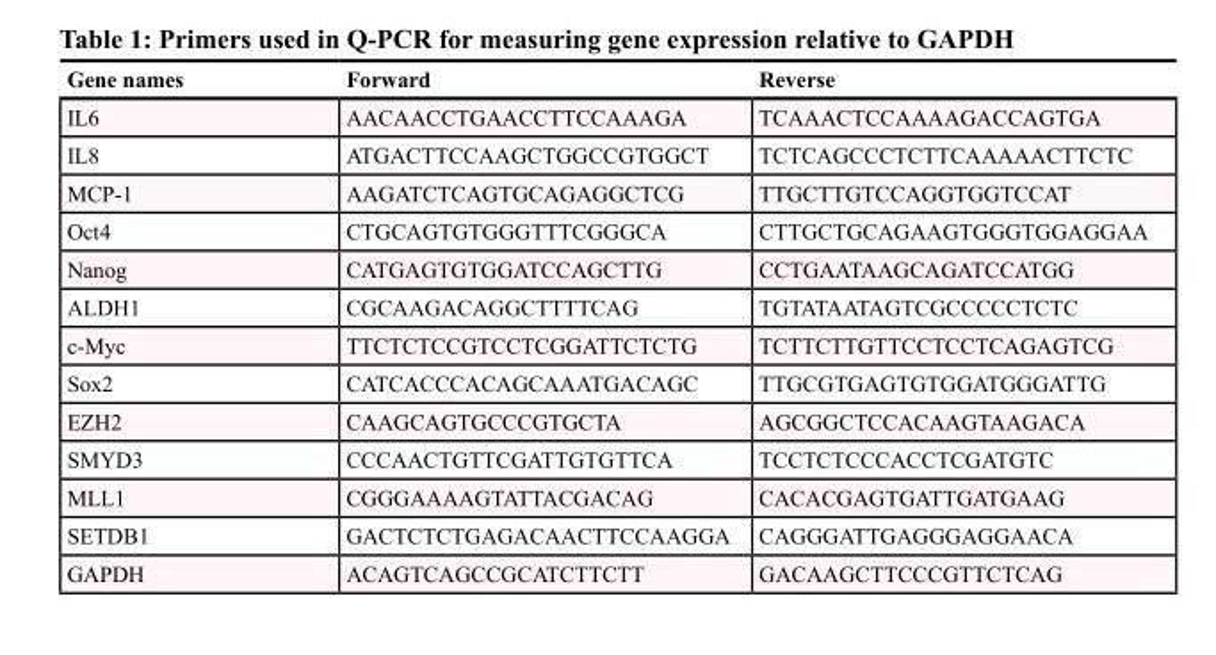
<table><thead><tr><td>Gene names</td><td>Forward</td><td>Reverse</td></tr></thead><tbody><tr><td>IL6</td><td>AACAACCTGAACCTTCCAAAGA</td><td>TCAAACTCCAAAAGACCAGTGA</td></tr><tr><td>IL8</td><td>ATGACTTCCAAGCTGGCCGTGGCT</td><td>TCTCAGCCCTCTTCAAAAACTTCTC</td></tr><tr><td>MCP-1</td><td>AAGATCTCAGTGCAGAGGCTCG</td><td>TTGCTTGTCCAGGTGGTCCAT</td></tr><tr><td>Oct4</td><td>CTGCAGTGTGGGTTTCGGGCA</td><td>CTTGCTGCAGAAGTGGGTGGAGGAA</td></tr><tr><td>Nanog</td><td>CATGAGTGTGGATCCAGCTTG</td><td>CCTGAATAAGCAGATCCATGG</td></tr><tr><td>ALDH1</td><td>CGCAAGACAGGCTTTTCAG</td><td>TGTATAATAGTCGCCCCCTCTC</td></tr><tr><td>c-Myc</td><td>TTCTCTCCGTCCTCGGATTCTCTG</td><td>TCTTCTTGTTCCTCCTCAGAGTCG</td></tr><tr><td>Sox2</td><td>CATCACCCACAGCAAATGACAGC</td><td>TTGCGTGAGTGTGGATGGGATTG</td></tr><tr><td>EZH2</td><td>CAAGCAGTGCCCGTGCTA</td><td>AGCGGCTCCACAAGTAAGACA</td></tr><tr><td>SMYD3</td><td>CCCAACTGTTCGATTGTGTTCA</td><td>TCCTCTCCCACCTCGATGTC</td></tr><tr><td>MLL1</td><td>CGGGAAAAGTATTACGACAG</td><td>CACACGAGTGATTGATGAAG</td></tr><tr><td>SETDB1</td><td>GACTCTCTGAGACAACTTCCAAGGA</td><td>CAGGGATTGAGGGAGGAACA</td></tr><tr><td>GAPDH</td><td>ACAGTCAGCCGCATCTTCTT</td><td>GACAAGCTTCCCGTTCTCAG</td></tr></tbody></table>